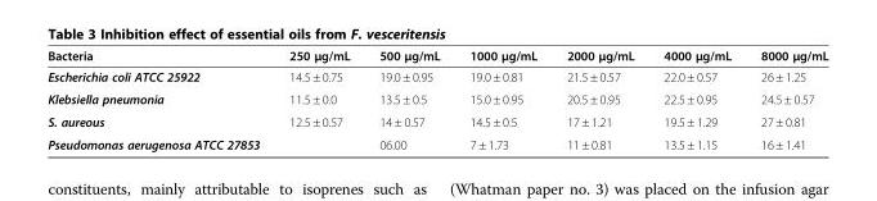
<table><thead><tr><td>Bacteria</td><td>250 μg/mL</td><td>500 μg/mL</td><td>1000 μg/mL</td><td>2000 μg/mL</td><td>4000 μg/mL</td><td>8000 μg/mL</td></tr></thead><tbody><tr><td>Escherichia coli ATCC 25922</td><td>14.5 ± 0.75</td><td>19.0 ± 0.95</td><td>19.0 ± 0.81</td><td>21.5 ± 0.57</td><td>22.0 ± 0.57</td><td>26 ± 1.25</td></tr><tr><td>Klebsiella pneumonia</td><td>11.5 ± 0.0</td><td>13.5 ± 0.5</td><td>15.0 ± 0.95</td><td>20.5 ± 0.95</td><td>22.5 ± 0.95</td><td>24.5 ± 0.57</td></tr><tr><td>S. aureous</td><td>12.5 ± 0.57</td><td>14 ± 0.57</td><td>14.5 ± 0.5</td><td>17 ± 1.21</td><td>19.5 ± 1.29</td><td>27 ± 0.81</td></tr><tr><td>Pseudomonas aerugenosa ATCC 27853</td><td></td><td>06.00</td><td>7 ± 1.73</td><td>11 ± 0.81</td><td>13.5 ± 1.15</td><td>16 ± 1.41</td></tr></tbody></table>